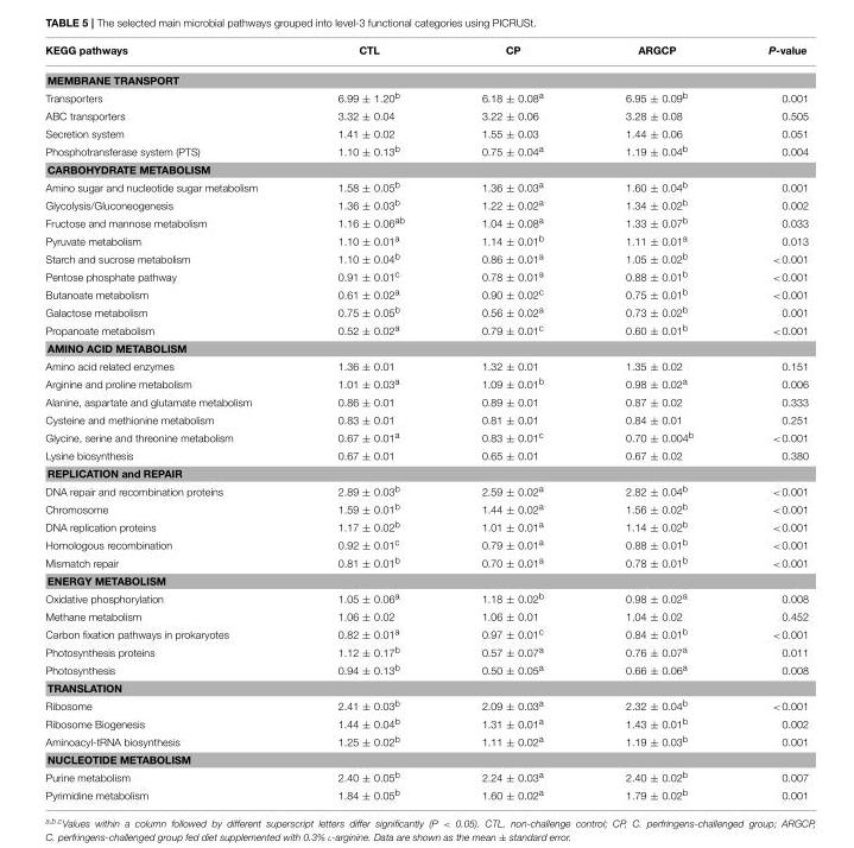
<table><thead><tr><td>KEGG pathways</td><td>CTL</td><td>CP</td><td>ARGCP</td><td>P-value</td></tr></thead><tbody><tr><td colspan="5">MEMBRANE TRANSPORT</td></tr><tr><td>Transporters</td><td>6.99 ± 1.20<sup>b</sup></td><td>6.18 ± 0.08<sup>a</sup></td><td>6.95 ± 0.09<sup>b</sup></td><td>0.001</td></tr><tr><td>ABC transporters</td><td>3.32 ± 0.04</td><td>3.22 ± 0.06</td><td>3.28 ± 0.08</td><td>0.505</td></tr><tr><td>Secretion system</td><td>1.41 ± 0.02</td><td>1.55 ± 0.03</td><td>1.44 ± 0.06</td><td>0.051</td></tr><tr><td>Phosphotransferase system (PTS)</td><td>1.10 ± 0.13<sup>b</sup></td><td>0.75 ± 0.04<sup>a</sup></td><td>1.19 ± 0.04<sup>b</sup></td><td>0.004</td></tr><tr><td colspan="5">CARBOHYDRATE METABOLISM</td></tr><tr><td>Amino sugar and nucleotide sugar metabolism</td><td>1.58 ± 0.05<sup>b</sup></td><td>1.36 ± 0.03<sup>a</sup></td><td>1.60 ± 0.04<sup>b</sup></td><td>0.001</td></tr><tr><td>Glycolysis/Gluconeogenesis</td><td>1.36 ± 0.03<sup>b</sup></td><td>1.22 ± 0.02<sup>a</sup></td><td>1.34 ± 0.02<sup>b</sup></td><td>0.002</td></tr><tr><td>Fructose and mannose metabolism</td><td>1.16 ± 0.06<sup>ab</sup></td><td>1.04 ± 0.08<sup>a</sup></td><td>1.33 ± 0.07<sup>b</sup></td><td>0.033</td></tr><tr><td>Pyruvate metabolism</td><td>1.10 ± 0.01<sup>a</sup></td><td>1.14 ± 0.01<sup>b</sup></td><td>1.11 ± 0.01<sup>a</sup></td><td>0.013</td></tr><tr><td>Starch and sucrose metabolism</td><td>1.10 ± 0.04<sup>b</sup></td><td>0.86 ± 0.01<sup>a</sup></td><td>1.05 ± 0.02<sup>b</sup></td><td>&lt;0.001</td></tr><tr><td>Pentose phosphate pathway</td><td>0.91 ± 0.01<sup>c</sup></td><td>0.78 ± 0.01<sup>a</sup></td><td>0.88 ± 0.01<sup>b</sup></td><td>&lt;0.001</td></tr><tr><td>Butanoate metabolism</td><td>0.61 ± 0.02<sup>a</sup></td><td>0.90 ± 0.02<sup>c</sup></td><td>0.75 ± 0.01<sup>b</sup></td><td>&lt;0.001</td></tr><tr><td>Galactose metabolism</td><td>0.75 ± 0.05<sup>b</sup></td><td>0.56 ± 0.02<sup>a</sup></td><td>0.73 ± 0.02<sup>b</sup></td><td>0.001</td></tr><tr><td>Propanoate metabolism</td><td>0.52 ± 0.02<sup>a</sup></td><td>0.79 ± 0.01<sup>c</sup></td><td>0.60 ± 0.01<sup>b</sup></td><td>&lt;0.001</td></tr><tr><td colspan="5">AMINO ACID METABOLISM</td></tr><tr><td>Amino acid related enzymes</td><td>1.36 ± 0.01</td><td>1.32 ± 0.01</td><td>1.35 ± 0.02</td><td>0.151</td></tr><tr><td>Arginine and proline metabolism</td><td>1.01 ± 0.03<sup>a</sup></td><td>1.09 ± 0.01<sup>b</sup></td><td>0.98 ± 0.02<sup>a</sup></td><td>0.006</td></tr><tr><td>Alanine, aspartate and glutamate metabolism</td><td>0.86 ± 0.01</td><td>0.89 ± 0.01</td><td>0.87 ± 0.02</td><td>0.333</td></tr><tr><td>Cysteine and methionine metabolism</td><td>0.83 ± 0.01</td><td>0.81 ± 0.01</td><td>0.84 ± 0.01</td><td>0.251</td></tr><tr><td>Glycine, serine and threonine metabolism</td><td>0.67 ± 0.01<sup>a</sup></td><td>0.83 ± 0.01<sup>c</sup></td><td>0.70 ± 0.004<sup>b</sup></td><td>&lt;0.001</td></tr><tr><td>Lysine biosynthesis</td><td>0.67 ± 0.01</td><td>0.65 ± 0.01</td><td>0.67 ± 0.02</td><td>0.380</td></tr><tr><td colspan="5">REPLICATION and REPAIR</td></tr><tr><td>DNA repair and recombination proteins</td><td>2.89 ± 0.03<sup>b</sup></td><td>2.59 ± 0.02<sup>a</sup></td><td>2.82 ± 0.04<sup>b</sup></td><td>&lt;0.001</td></tr><tr><td>Chromosome</td><td>1.59 ± 0.01<sup>b</sup></td><td>1.44 ± 0.02<sup>a</sup></td><td>1.56 ± 0.02<sup>b</sup></td><td>&lt;0.001</td></tr><tr><td>DNA replication proteins</td><td>1.17 ± 0.02<sup>b</sup></td><td>1.01 ± 0.01<sup>a</sup></td><td>1.14 ± 0.02<sup>b</sup></td><td>&lt;0.001</td></tr><tr><td>Homologous recombination</td><td>0.92 ± 0.01<sup>c</sup></td><td>0.79 ± 0.01<sup>a</sup></td><td>0.88 ± 0.01<sup>b</sup></td><td>&lt;0.001</td></tr><tr><td>Mismatch repair</td><td>0.81 ± 0.01<sup>b</sup></td><td>0.70 ± 0.01<sup>a</sup></td><td>0.78 ± 0.01<sup>b</sup></td><td>&lt;0.001</td></tr><tr><td colspan="5">ENERGY METABOLISM</td></tr><tr><td>Oxidative phosphorylation</td><td>1.05 ± 0.06<sup>a</sup></td><td>1.18 ± 0.02<sup>b</sup></td><td>0.98 ± 0.02<sup>a</sup></td><td>0.008</td></tr><tr><td>Methane metabolism</td><td>1.06 ± 0.02</td><td>1.06 ± 0.01</td><td>1.04 ± 0.02</td><td>0.452</td></tr><tr><td>Carbon fixation pathways in prokaryotes</td><td>0.82 ± 0.01<sup>a</sup></td><td>0.97 ± 0.01<sup>c</sup></td><td>0.84 ± 0.01<sup>b</sup></td><td>&lt;0.001</td></tr><tr><td>Photosynthesis proteins</td><td>1.12 ± 0.17<sup>b</sup></td><td>0.57 ± 0.07<sup>a</sup></td><td>0.76 ± 0.07<sup>a</sup></td><td>0.011</td></tr><tr><td>Photosynthesis</td><td>0.94 ± 0.13<sup>b</sup></td><td>0.50 ± 0.05<sup>a</sup></td><td>0.66 ± 0.06<sup>a</sup></td><td>0.008</td></tr><tr><td colspan="5">TRANSLATION</td></tr><tr><td>Ribosome</td><td>2.41 ± 0.03<sup>b</sup></td><td>2.09 ± 0.03<sup>a</sup></td><td>2.32 ± 0.04<sup>b</sup></td><td>&lt;0.001</td></tr><tr><td>Ribosome Biogenesis</td><td>1.44 ± 0.04<sup>b</sup></td><td>1.31 ± 0.01<sup>a</sup></td><td>1.43 ± 0.01<sup>b</sup></td><td>0.002</td></tr><tr><td>Aminoacyl-tRNA biosynthesis</td><td>1.25 ± 0.02<sup>b</sup></td><td>1.11 ± 0.02<sup>a</sup></td><td>1.19 ± 0.03<sup>b</sup></td><td>0.001</td></tr><tr><td colspan="5">NUCLEOTIDE METABOLISM</td></tr><tr><td>Purine metabolism</td><td>2.40 ± 0.05<sup>b</sup></td><td>2.24 ± 0.03<sup>a</sup></td><td>2.40 ± 0.02<sup>b</sup></td><td>0.007</td></tr><tr><td>Pyrimidine metabolism</td><td>1.84 ± 0.05<sup>b</sup></td><td>1.60 ± 0.02<sup>a</sup></td><td>1.79 ± 0.02<sup>b</sup></td><td>0.001</td></tr></tbody></table>